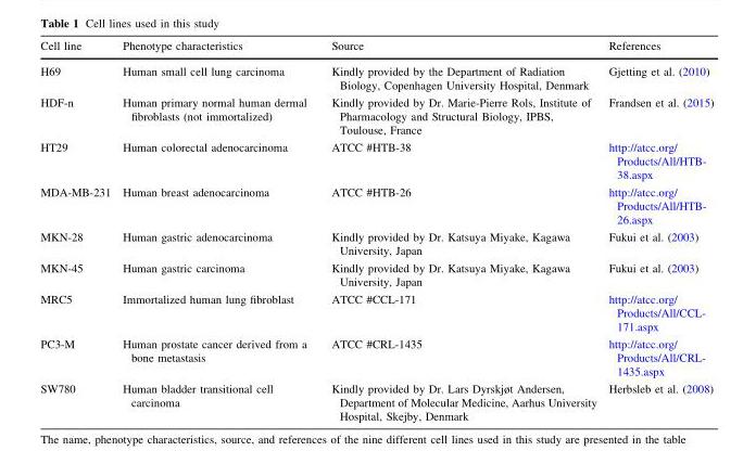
<table><thead><tr><td>Cell line</td><td>Phenotype characteristics</td><td>Source</td><td>References</td></tr></thead><tbody><tr><td>H69</td><td>Human small cell lung carcinoma</td><td>Kindly provided by the Department of Radiation Biology, Copenhagen University Hospital, Denmark</td><td>Gjetting et al. (2010)</td></tr><tr><td>HDF-n</td><td>Human primary normal human dermal fibroblasts (not immortalized)</td><td>Kindly provided by Dr. Marie-Pierre Rols, Institute of Pharmacology and Structural Biology, IPBS, Toulouse, France</td><td>Frandsen et al. (2015)</td></tr><tr><td>HT29</td><td>Human colorectal adenocarcinoma</td><td>ATCC #HTB-38</td><td>http://atcc.org/ Products/All/HTB- 38.aspx</td></tr><tr><td>MDA-MB-231</td><td>Human breast adenocarcinoma</td><td>ATCC #HTB-26</td><td>http://atcc.org/ Products/All/HTB- 26.aspx</td></tr><tr><td>MKN-28</td><td>Human gastric adenocarcinoma</td><td>Kindly provided by Dr. Katsuya Miyake, Kagawa University, Japan</td><td>Fukui et al. (2003)</td></tr><tr><td>MKN-45</td><td>Human gastric carcinoma</td><td>Kindly provided by Dr. Katsuya Miyake, Kagawa University, Japan</td><td>Fukui et al. (2003)</td></tr><tr><td>MRC5</td><td>Immortalized human lung fibroblast</td><td>ATCC #CCL-171</td><td>http://atcc.org/ Products/All/CCL- 171.aspx</td></tr><tr><td>PC3-M</td><td>Human prostate cancer derived from a bone metastasis</td><td>ATCC #CRL-1435</td><td>http://atcc.org/ Products/All/CRL- 1435.aspx</td></tr><tr><td>SW780</td><td>Human bladder transitional cell carcinoma</td><td>Kindly provided by Dr. Lars Dyrskjøt Andersen, Department of Molecular Medicine, Aarhus University Hospital, Skejby, Denmark</td><td>Herbsleb et al. (2008)</td></tr></tbody></table>